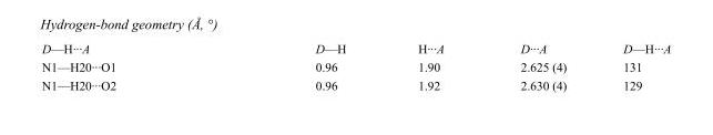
<table><tbody><tr><td>D—H···A</td><td>D—H</td><td>H···A</td><td>D···A</td><td>D—H···A</td></tr><tr><td>N1—H20···O1</td><td>0.96</td><td>1.90</td><td>2.625 (4)</td><td>131</td></tr><tr><td>N1—H20···O2</td><td>0.96</td><td>1.92</td><td>2.630 (4)</td><td>129</td></tr></tbody></table>